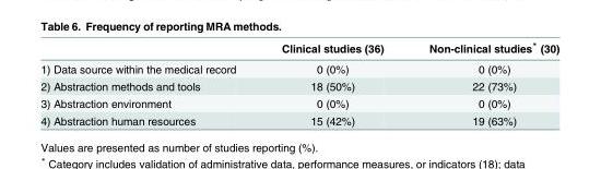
<table><thead><tr><td></td><td>Clinical studies (36)</td><td>Non-clinical studies* (30)</td></tr></thead><tbody><tr><td>1) Data source within the medical record</td><td>0 (0%)</td><td>0 (0%)</td></tr><tr><td>2) Abstraction methods and tools</td><td>18 (50%)</td><td>22 (73%)</td></tr><tr><td>3) Abstraction environment</td><td>0 (0%)</td><td>0 (0%)</td></tr><tr><td>4) Abstraction human resources</td><td>15 (42%)</td><td>19 (63%)</td></tr></tbody></table>